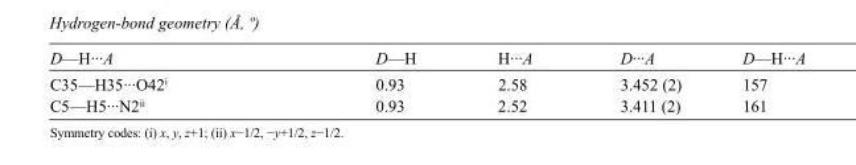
<table><tbody><tr><td>D—H···A</td><td>D—H</td><td>H···A</td><td>D···A</td><td>D—H···A</td></tr><tr><td>C35—H35···O42<sup>i</sup></td><td>0.93</td><td>2.58</td><td>3.452 (2)</td><td>157</td></tr><tr><td>C5—H5···N2<sup>ii</sup></td><td>0.93</td><td>2.52</td><td>3.411 (2)</td><td>161</td></tr></tbody></table>